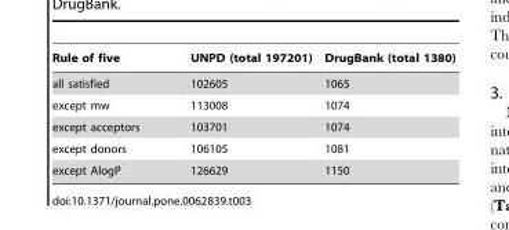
<table><thead><tr><td>Rule of five</td><td>UNPD (total 197201)</td><td>DrugBank (total 1380)</td></tr></thead><tbody><tr><td>all satisfied</td><td>102605</td><td>1065</td></tr><tr><td>except mw</td><td>113008</td><td>1074</td></tr><tr><td>except acceptors</td><td>103701</td><td>1074</td></tr><tr><td>except donors</td><td>106105</td><td>1081</td></tr><tr><td>except AlogP</td><td>126629</td><td>1150</td></tr></tbody></table>